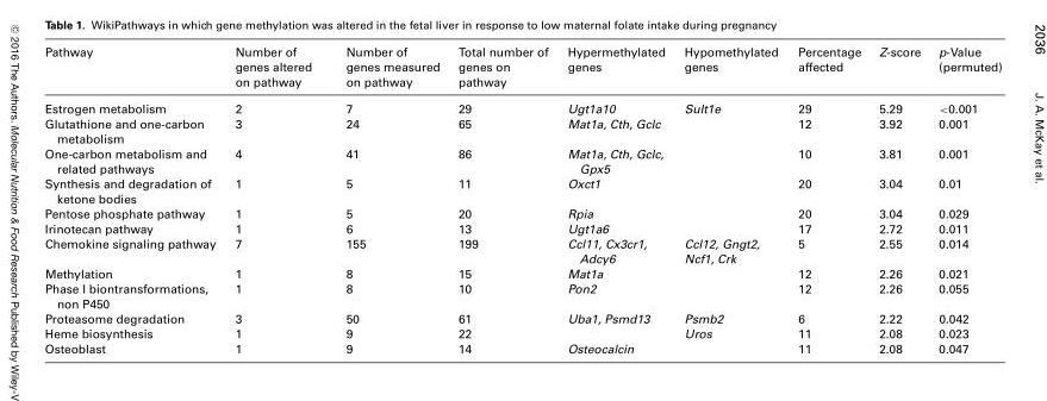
<table><thead><tr><td>Pathway</td><td>Number of genes altered on pathway</td><td>Number of genes measured on pathway</td><td>Total number of genes on pathway</td><td>Hypermethylated genes</td><td>Hypomethylated genes</td><td>Percentage affected</td><td>Z-score</td><td>p-Value (permuted)</td></tr></thead><tbody><tr><td>Estrogen metabolism</td><td>2</td><td>7</td><td>29</td><td>Ugt1a10</td><td>Sult1e</td><td>29</td><td>5.29</td><td>&lt;0.001</td></tr><tr><td>Glutathione and one-carbon metabolism</td><td>3</td><td>24</td><td>65</td><td>Mat1a, Cth, Gclc</td><td></td><td>12</td><td>3.92</td><td>0.001</td></tr><tr><td>One-carbon metabolism and related pathways</td><td>4</td><td>41</td><td>86</td><td>Mat1a, Cth, Gclc, Gpx5</td><td></td><td>10</td><td>3.81</td><td>0.001</td></tr><tr><td>Synthesis and degradation of ketone bodies</td><td>1</td><td>5</td><td>11</td><td>Oxct1</td><td></td><td>20</td><td>3.04</td><td>0.01</td></tr><tr><td>Pentose phosphate pathway</td><td>1</td><td>5</td><td>20</td><td>Rpia</td><td></td><td>20</td><td>3.04</td><td>0.029</td></tr><tr><td>Irinotecan pathway</td><td>1</td><td>6</td><td>13</td><td>Ugt1a6</td><td></td><td>17</td><td>2.72</td><td>0.011</td></tr><tr><td>Chemokine signaling pathway</td><td>7</td><td>155</td><td>199</td><td>Ccl11, Cx3cr1, Adcy6</td><td>Ccl12, Gngt2, Ncf1, Crk</td><td>5</td><td>2.55</td><td>0.014</td></tr><tr><td>Methylation</td><td>1</td><td>8</td><td>15</td><td>Mat1a</td><td></td><td>12</td><td>2.26</td><td>0.021</td></tr><tr><td>Phase I biontransformations, non P450</td><td>1</td><td>8</td><td>10</td><td>Pon2</td><td></td><td>12</td><td>2.26</td><td>0.055</td></tr><tr><td>Proteasome degradation</td><td>3</td><td>50</td><td>61</td><td>Uba1, Psmd13</td><td>Psmb2</td><td>6</td><td>2.22</td><td>0.042</td></tr><tr><td>Heme biosynthesis</td><td>1</td><td>9</td><td>22</td><td></td><td>Uros</td><td>11</td><td>2.08</td><td>0.023</td></tr><tr><td>Osteoblast</td><td>1</td><td>9</td><td>14</td><td>Osteocalcin</td><td></td><td>11</td><td>2.08</td><td>0.047</td></tr></tbody></table>